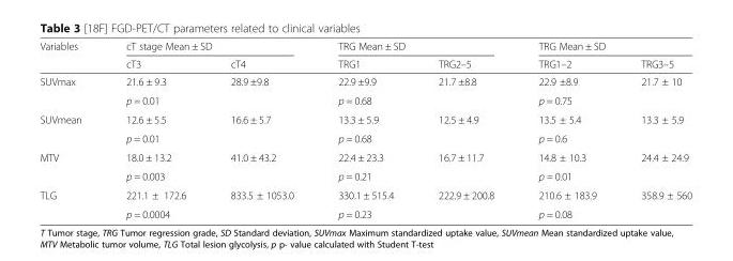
<table><thead><tr><td rowspan="2">Variables</td><td colspan="2">cT stage Mean ± SD</td><td colspan="2">TRG Mean ± SD</td><td colspan="2">TRG Mean ± SD</td></tr><tr><td>cT3</td><td>cT4</td><td>TRG1</td><td>TRG2–5</td><td>TRG1–2</td><td>TRG3–5</td></tr></thead><tbody><tr><td rowspan="2">SUVmax</td><td>21.6 ± 9.3</td><td>28.9 ±9.8</td><td>22.9 ±9.9</td><td>21.7 ±8.8</td><td>22.9 ±8.9</td><td>21.7 ± 10</td></tr><tr><td colspan="2">p = 0.01</td><td colspan="2">p = 0.68</td><td colspan="2">p = 0.75</td></tr><tr><td rowspan="2">SUVmean</td><td>12.6 ± 5.5</td><td>16.6 ± 5.7</td><td>13.3 ± 5.9</td><td>12.5 ± 4.9</td><td>13.5 ± 5.4</td><td>13.3 ± 5.9</td></tr><tr><td colspan="2">p = 0.01</td><td colspan="2">p = 0.68</td><td colspan="2">p = 0.6</td></tr><tr><td rowspan="2">MTV</td><td>18.0 ± 13.2</td><td>41.0 ± 43.2</td><td>22.4 ± 23.3</td><td>16.7 ± 11.7</td><td>14.8 ± 10.3</td><td>24.4 ± 24.9</td></tr><tr><td colspan="2">p = 0.003</td><td colspan="2">p = 0.21</td><td colspan="2">p = 0.01</td></tr><tr><td rowspan="2">TLG</td><td>221.1 ± 172.6</td><td>833.5 ± 1053.0</td><td>330.1 ± 515.4</td><td>222.9 ± 200.8</td><td>210.6 ± 183.9</td><td>358.9 ± 560</td></tr><tr><td colspan="2">p = 0.0004</td><td colspan="2">p = 0.23</td><td colspan="2">p = 0.08</td></tr></tbody></table>